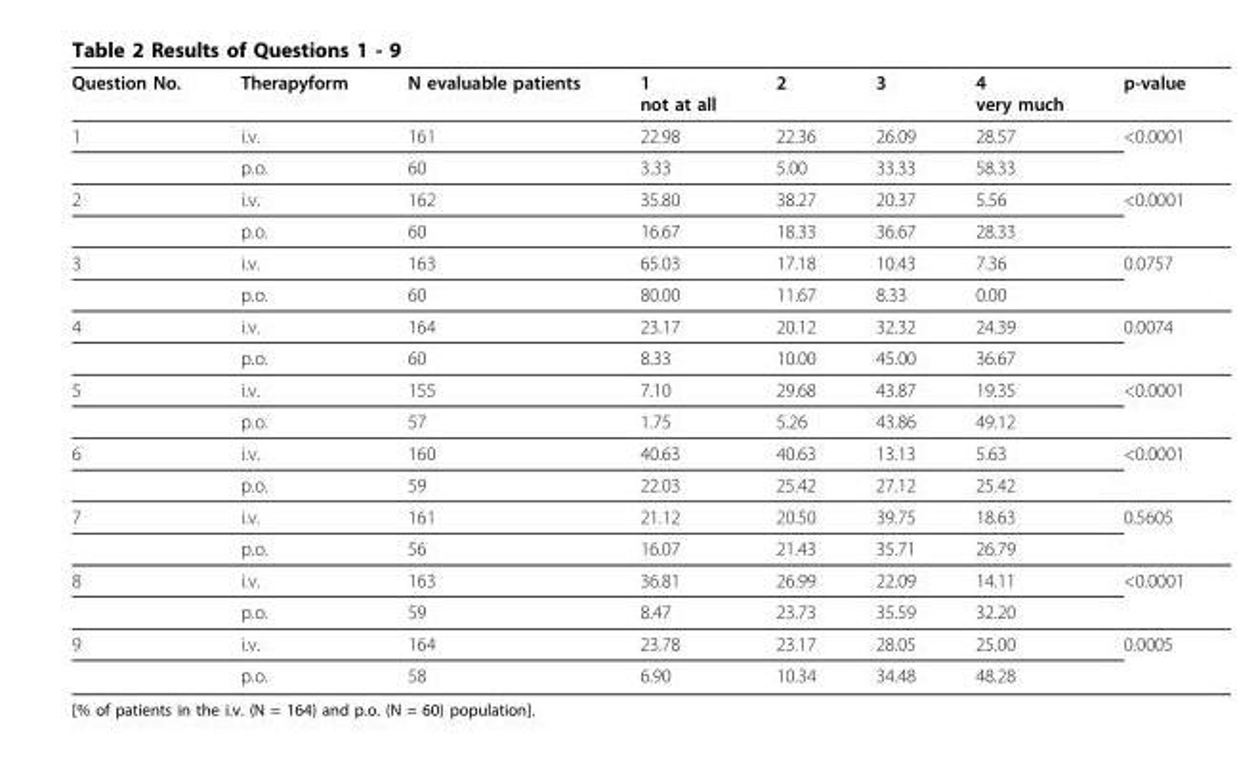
<table><thead><tr><td>Question No.</td><td>Therapyform</td><td>N evaluable patients</td><td>1 not at all</td><td>2</td><td>3</td><td>4 very much</td><td>p-value</td></tr></thead><tbody><tr><td rowspan="2">1</td><td>i.v.</td><td>161</td><td>22.98</td><td>22.36</td><td>26.09</td><td>28.57</td><td>&lt;0.0001</td></tr><tr><td>p.o.</td><td>60</td><td>3.33</td><td>5.00</td><td>33.33</td><td>58.33</td><td></td></tr><tr><td rowspan="2">2</td><td>i.v.</td><td>162</td><td>35.80</td><td>38.27</td><td>20.37</td><td>5.56</td><td>&lt;0.0001</td></tr><tr><td>p.o.</td><td>60</td><td>16.67</td><td>18.33</td><td>36.67</td><td>28.33</td><td></td></tr><tr><td rowspan="2">3</td><td>i.v.</td><td>163</td><td>65.03</td><td>17.18</td><td>10.43</td><td>7.36</td><td>0.0757</td></tr><tr><td>p.o.</td><td>60</td><td>80.00</td><td>11.67</td><td>8.33</td><td>0.00</td><td></td></tr><tr><td rowspan="2">4</td><td>i.v.</td><td>164</td><td>23.17</td><td>20.12</td><td>32.32</td><td>24.39</td><td>0.0074</td></tr><tr><td>p.o.</td><td>60</td><td>8.33</td><td>10.00</td><td>45.00</td><td>36.67</td><td></td></tr><tr><td rowspan="2">5</td><td>i.v.</td><td>155</td><td>7.10</td><td>29.68</td><td>43.87</td><td>19.35</td><td>&lt;0.0001</td></tr><tr><td>p.o.</td><td>57</td><td>1.75</td><td>5.26</td><td>43.86</td><td>49.12</td><td></td></tr><tr><td rowspan="2">6</td><td>i.v.</td><td>160</td><td>40.63</td><td>40.63</td><td>13.13</td><td>5.63</td><td>&lt;0.0001</td></tr><tr><td>p.o.</td><td>59</td><td>22.03</td><td>25.42</td><td>27.12</td><td>25.42</td><td></td></tr><tr><td rowspan="2">7</td><td>i.v.</td><td>161</td><td>21.12</td><td>20.50</td><td>39.75</td><td>18.63</td><td>0.5605</td></tr><tr><td>p.o.</td><td>56</td><td>16.07</td><td>21.43</td><td>35.71</td><td>26.79</td><td></td></tr><tr><td rowspan="2">8</td><td>i.v.</td><td>163</td><td>36.81</td><td>26.99</td><td>22.09</td><td>14.11</td><td>&lt;0.0001</td></tr><tr><td>p.o.</td><td>59</td><td>8.47</td><td>23.73</td><td>35.59</td><td>32.20</td><td></td></tr><tr><td rowspan="2">9</td><td>i.v.</td><td>164</td><td>23.78</td><td>23.17</td><td>28.05</td><td>25.00</td><td>0.0005</td></tr><tr><td>p.o.</td><td>58</td><td>6.90</td><td>10.34</td><td>34.48</td><td>48.28</td><td></td></tr></tbody></table>